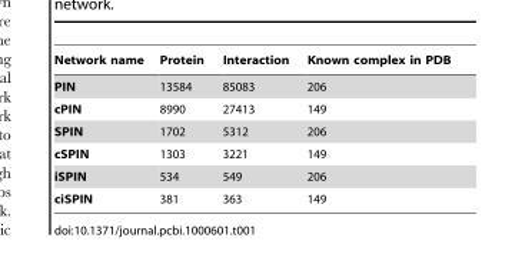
<table><thead><tr><td>Network name</td><td>Protein</td><td>Interaction</td><td>Known complex in PDB</td></tr></thead><tbody><tr><td>PIN</td><td>13584</td><td>85083</td><td>206</td></tr><tr><td>cPIN</td><td>8990</td><td>27413</td><td>149</td></tr><tr><td>SPIN</td><td>1702</td><td>5312</td><td>206</td></tr><tr><td>cSPIN</td><td>1303</td><td>3221</td><td>149</td></tr><tr><td>iSPIN</td><td>534</td><td>549</td><td>206</td></tr><tr><td>ciSPIN</td><td>381</td><td>363</td><td>149</td></tr></tbody></table>